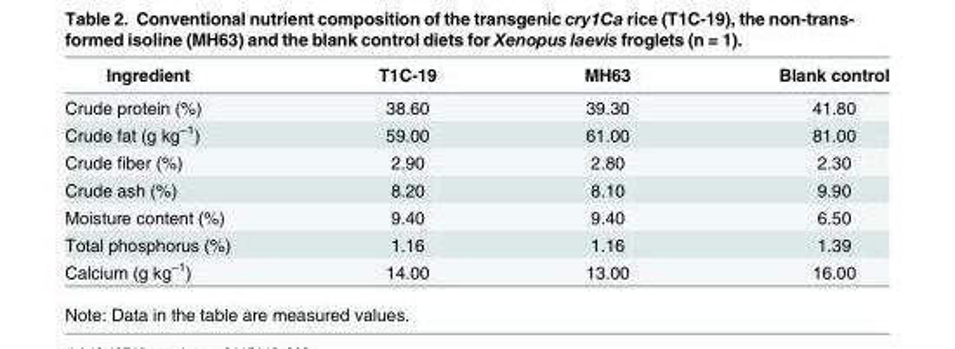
<table><thead><tr><td>Ingredient</td><td>T1C-19</td><td>MH63</td><td>Blank control</td></tr></thead><tbody><tr><td>Crude protein (%)</td><td>38.60</td><td>39.30</td><td>41.80</td></tr><tr><td>Crude fat (g kg<sup>–1</sup>)</td><td>59.00</td><td>61.00</td><td>81.00</td></tr><tr><td>Crude fiber (%)</td><td>2.90</td><td>2.80</td><td>2.30</td></tr><tr><td>Crude ash (%)</td><td>8.20</td><td>8.10</td><td>9.90</td></tr><tr><td>Moisture content (%)</td><td>9.40</td><td>9.40</td><td>6.50</td></tr><tr><td>Total phosphorus (%)</td><td>1.16</td><td>1.16</td><td>1.39</td></tr><tr><td>Calcium (g kg<sup>–1</sup>)</td><td>14.00</td><td>13.00</td><td>16.00</td></tr></tbody></table>